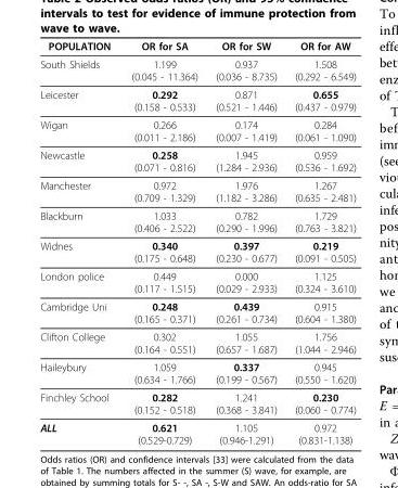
<table><thead><tr><td>POPULATION</td><td>OR for SA</td><td>OR for SW</td><td>OR for AW</td></tr></thead><tbody><tr><td>South Shields</td><td>1.199 (0.045 - 11.364)</td><td>0.937 (0.036 - 8.735)</td><td>1.508 (0.292 - 6.549)</td></tr><tr><td>Leicester</td><td>0.292 (0.158 - 0.533)</td><td>0.871 (0.521 - 1.446)</td><td>0.655 (0.437 - 0.979)</td></tr><tr><td>Wigan</td><td>0.266 (0.011 - 2.186)</td><td>0.174 (0.007 - 1.419)</td><td>0.284 (0.061 - 1.090)</td></tr><tr><td>Newcastle</td><td>0.258 (0.071 - 0.816)</td><td>1.945 (1.284 - 2.936)</td><td>0.959 (0.536 - 1.692)</td></tr><tr><td>Manchester</td><td>0.972 (0.709 - 1.329)</td><td>1.976 (1.182 - 3.286)</td><td>1.267 (0.635 - 2.481)</td></tr><tr><td>Blackburn</td><td>1.033 (0.406 - 2.522)</td><td>0.782 (0.290 - 1.996)</td><td>1.729 (0.763 - 3.821)</td></tr><tr><td>Widnes</td><td>0.340 (0.175 - 0.648)</td><td>0.397 (0.230 - 0.677)</td><td>0.219 (0.091 - 0.505)</td></tr><tr><td>London police</td><td>0.449 (0.117 - 1.515)</td><td>0.000 (0.029 - 2.933)</td><td>1.125 (0.324 - 3.610)</td></tr><tr><td>Cambridge Uni</td><td>0.248 (0.165 - 0.371)</td><td>0.439 (0.261 - 0.734)</td><td>0.915 (0.604 - 1.380)</td></tr><tr><td>Clifton College</td><td>0.302 (0.164 - 0.551)</td><td>1.055 (0.657 - 1.687)</td><td>1.756 (1.044 - 2.946)</td></tr><tr><td>Haileybury</td><td>1.059 (0.634 - 1.766)</td><td>0.337 (0.199 - 0.567)</td><td>0.945 (0.550 - 1.620)</td></tr><tr><td>Finchley School</td><td>0.282 (0.152 - 0.518)</td><td>1.241 (0.368 - 3.841)</td><td>0.230 (0.060 - 0.774)</td></tr><tr><td>ALL</td><td>0.621 (0.529-0.729)</td><td>1.105 (0.946-1.291)</td><td>0.972 (0.831-1.138)</td></tr></tbody></table>